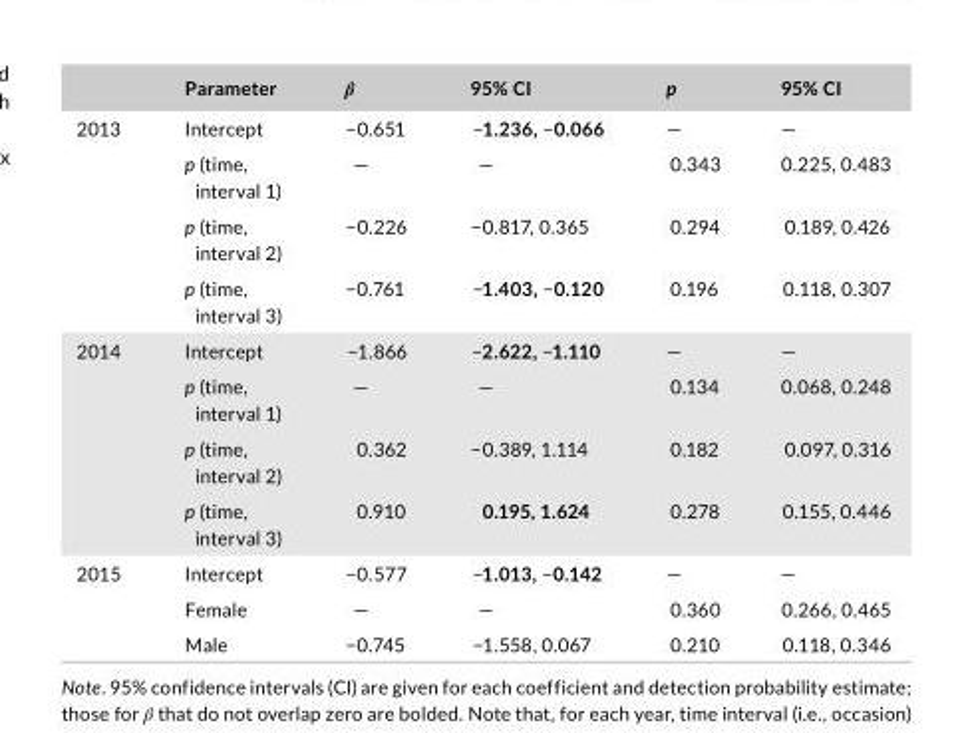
<table><thead><tr><td></td><td>Parameter</td><td>β</td><td>95% CI</td><td>p</td><td>95% CI</td></tr></thead><tbody><tr><td rowspan="4">2013</td><td>Intercept</td><td>−0.651</td><td>−1.236, −0.066</td><td>—</td><td>—</td></tr><tr><td>p (time, interval 1)</td><td>—</td><td>—</td><td>0.343</td><td>0.225, 0.483</td></tr><tr><td>p (time, interval 2)</td><td>−0.226</td><td>−0.817, 0.365</td><td>0.294</td><td>0.189, 0.426</td></tr><tr><td>p (time, interval 3)</td><td>−0.761</td><td>−1.403, −0.120</td><td>0.196</td><td>0.118, 0.307</td></tr><tr><td rowspan="4">2014</td><td>Intercept</td><td>−1.866</td><td>−2.622, −1.110</td><td>—</td><td>—</td></tr><tr><td>p (time, interval 1)</td><td>—</td><td>—</td><td>0.134</td><td>0.068, 0.248</td></tr><tr><td>p (time, interval 2)</td><td>0.362</td><td>−0.389, 1.114</td><td>0.182</td><td>0.097, 0.316</td></tr><tr><td>p (time, interval 3)</td><td>0.910</td><td>0.195, 1.624</td><td>0.278</td><td>0.155, 0.446</td></tr><tr><td rowspan="3">2015</td><td>Intercept</td><td>−0.577</td><td>−1.013, −0.142</td><td>—</td><td>—</td></tr><tr><td>Female</td><td>—</td><td>—</td><td>0.360</td><td>0.266, 0.465</td></tr><tr><td>Male</td><td>−0.745</td><td>−1.558, 0.067</td><td>0.210</td><td>0.118, 0.346</td></tr></tbody></table>